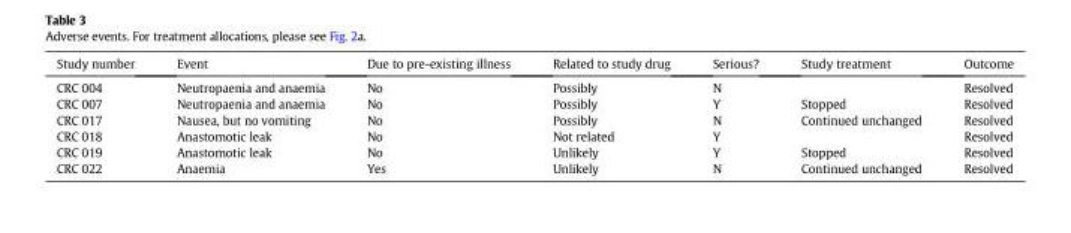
<table><thead><tr><td>Study number</td><td>Event</td><td>Due to pre-existing illness</td><td>Related to study drug</td><td>Serious?</td><td>Study treatment</td><td>Outcome</td></tr></thead><tbody><tr><td>CRC 004</td><td>Neutropaenia and anaemia</td><td>No</td><td>Possibly</td><td>N</td><td></td><td>Resolved</td></tr><tr><td>CRC 007</td><td>Neutropaenia and anaemia</td><td>No</td><td>Possibly</td><td>Y</td><td>Stopped</td><td>Resolved</td></tr><tr><td>CRC 017</td><td>Nausea, but no vomiting</td><td>No</td><td>Possibly</td><td>N</td><td>Continued unchanged</td><td>Resolved</td></tr><tr><td>CRC 018</td><td>Anastomotic leak</td><td>No</td><td>Not related</td><td>Y</td><td></td><td>Resolved</td></tr><tr><td>CRC 019</td><td>Anastomotic leak</td><td>No</td><td>Unlikely</td><td>Y</td><td>Stopped</td><td>Resolved</td></tr><tr><td>CRC 022</td><td>Anaemia</td><td>Yes</td><td>Unlikely</td><td>N</td><td>Continued unchanged</td><td>Resolved</td></tr></tbody></table>